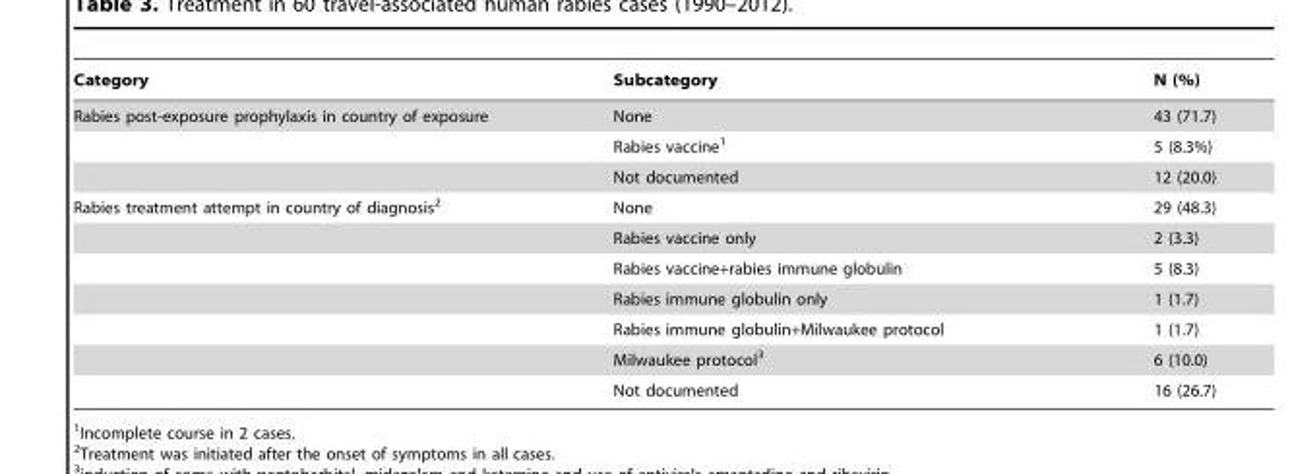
<table><thead><tr><td>Category</td><td>Subcategory</td><td>N (%)</td></tr></thead><tbody><tr><td rowspan="3">Rabies post-exposure prophylaxis in country of exposure</td><td>None</td><td>43 (71.7)</td></tr><tr><td>Rabies vaccine<sup>1</sup></td><td>5 (8.3%)</td></tr><tr><td>Not documented</td><td>12 (20.0)</td></tr><tr><td rowspan="7">Rabies treatment attempt in country of diagnosis<sup>2</sup></td><td>None</td><td>29 (48.3)</td></tr><tr><td>Rabies vaccine only</td><td>2 (3.3)</td></tr><tr><td>Rabies vaccine+rabies immune globulin</td><td>5 (8.3)</td></tr><tr><td>Rabies immune globulin only</td><td>1 (1.7)</td></tr><tr><td>Rabies immune globulin+Milwaukee protocol</td><td>1 (1.7)</td></tr><tr><td>Milwaukee protocol<sup>3</sup></td><td>6 (10.0)</td></tr><tr><td>Not documented</td><td>16 (26.7)</td></tr></tbody></table>